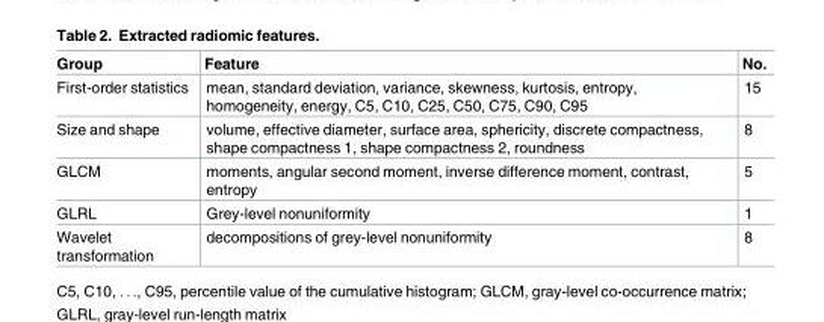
<table><thead><tr><td>Group</td><td>Feature</td><td>No.</td></tr></thead><tbody><tr><td>First-order statistics</td><td>mean, standard deviation, variance, skewness, kurtosis, entropy, homogeneity, energy, C5, C10, C25, C50, C75, C90, C95</td><td>15</td></tr><tr><td>Size and shape</td><td>volume, effective diameter, surface area, sphericity, discrete compactness, shape compactness 1, shape compactness 2, roundness</td><td>8</td></tr><tr><td>GLCM</td><td>moments, angular second moment, inverse difference moment, contrast, entropy</td><td>5</td></tr><tr><td>GLRL</td><td>Grey-level nonuniformity</td><td>1</td></tr><tr><td>Wavelet transformation</td><td>decompositions of grey-level nonuniformity</td><td>8</td></tr></tbody></table>